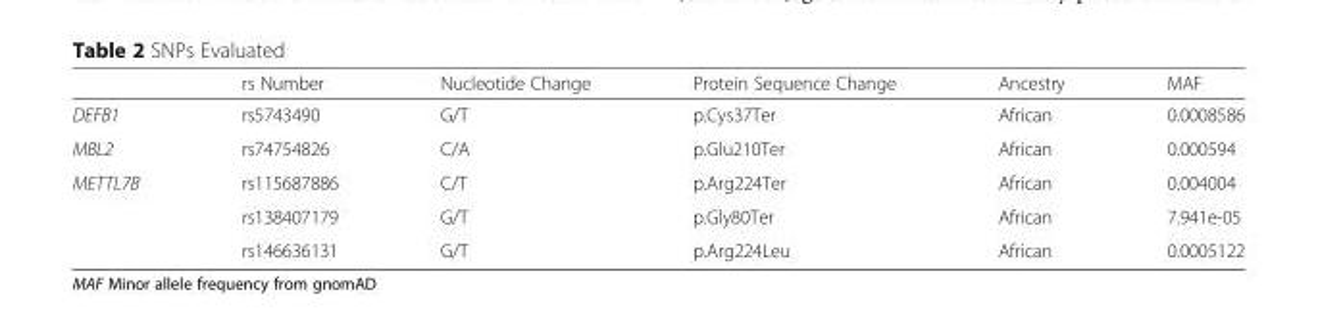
<table><thead><tr><td></td><td>rs Number</td><td>Nucleotide Change</td><td>Protein Sequence Change</td><td>Ancestry</td><td>MAF</td></tr></thead><tbody><tr><td>DEFB1</td><td>rs5743490</td><td>G/T</td><td>p.Cys37Ter</td><td>African</td><td>0.0008586</td></tr><tr><td>MBL2</td><td>rs74754826</td><td>C/A</td><td>p.Glu210Ter</td><td>African</td><td>0.000594</td></tr><tr><td rowspan="3">METTL7B</td><td>rs115687886</td><td>C/T</td><td>p.Arg224Ter</td><td>African</td><td>0.004004</td></tr><tr><td>rs138407179</td><td>G/T</td><td>p.Gly80Ter</td><td>African</td><td>7.941e-05</td></tr><tr><td>rs146636131</td><td>G/T</td><td>p.Arg224Leu</td><td>African</td><td>0.0005122</td></tr></tbody></table>